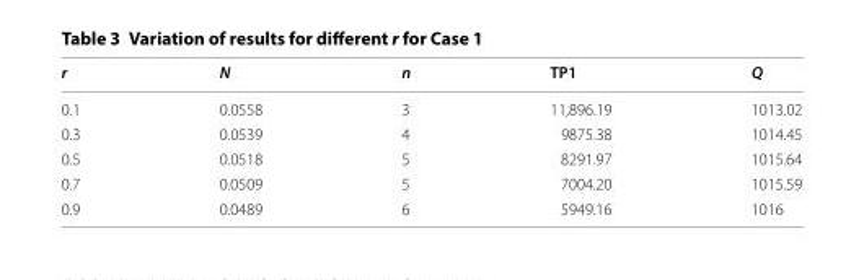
<table><thead><tr><td>r</td><td>N</td><td>n</td><td>TP1</td><td>Q</td></tr></thead><tbody><tr><td>0.1</td><td>0.0558</td><td>3</td><td>11,896.19</td><td>1013.02</td></tr><tr><td>0.3</td><td>0.0539</td><td>4</td><td>9875.38</td><td>1014.45</td></tr><tr><td>0.5</td><td>0.0518</td><td>5</td><td>8291.97</td><td>1015.64</td></tr><tr><td>0.7</td><td>0.0509</td><td>5</td><td>7004.20</td><td>1015.59</td></tr><tr><td>0.9</td><td>0.0489</td><td>6</td><td>5949.16</td><td>1016</td></tr></tbody></table>